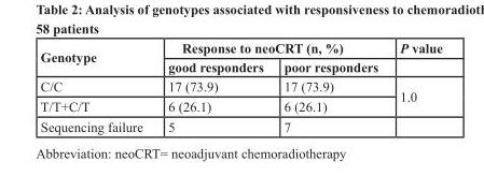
<table><thead><tr><td rowspan="2">Genotype</td><td colspan="2">response to neocrt (n, %)</td><td rowspan="2">P value</td></tr><tr><td>good responders</td><td>poor responders</td></tr></thead><tbody><tr><td>C/C</td><td>17 (73.9)</td><td>17 (73.9)</td><td rowspan="2">1.0</td></tr><tr><td>T/T+C/T</td><td>6 (26.1)</td><td>6 (26.1)</td></tr><tr><td>Sequencing failure</td><td>5</td><td>7</td><td></td></tr></tbody></table>